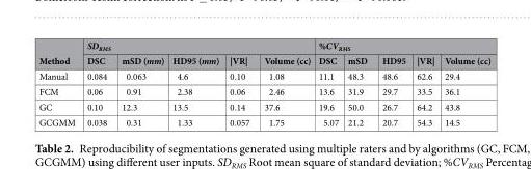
<table><thead><tr><td rowspan="2">Method</td><td colspan="5">SD<sub>RMS</sub></td><td colspan="5">%CV<sub>RMS</sub></td></tr><tr><td>DSC</td><td>mSD (mm)</td><td>HD95 (mm)</td><td>|VR|</td><td>Volume (cc)</td><td>DSC</td><td>mSD</td><td>HD95</td><td>|VR|</td><td>Volume (cc)</td></tr></thead><tbody><tr><td>Manual</td><td>0.084</td><td>0.063</td><td>4.6</td><td>0.10</td><td>1.08</td><td>11.1</td><td>48.3</td><td>48.6</td><td>62.6</td><td>29.4</td></tr><tr><td>FCM</td><td>0.06</td><td>0.91</td><td>2.38</td><td>0.06</td><td>2.46</td><td>13.6</td><td>31.9</td><td>29.7</td><td>33.5</td><td>36.1</td></tr><tr><td>GC</td><td>0.10</td><td>12.3</td><td>13.5</td><td>0.14</td><td>37.6</td><td>19.6</td><td>50.0</td><td>26.7</td><td>64.2</td><td>43.8</td></tr><tr><td>GCGMM</td><td>0.038</td><td>0.31</td><td>1.33</td><td>0.057</td><td>1.75</td><td>5.07</td><td>21.2</td><td>20.7</td><td>54.3</td><td>14.5</td></tr></tbody></table>